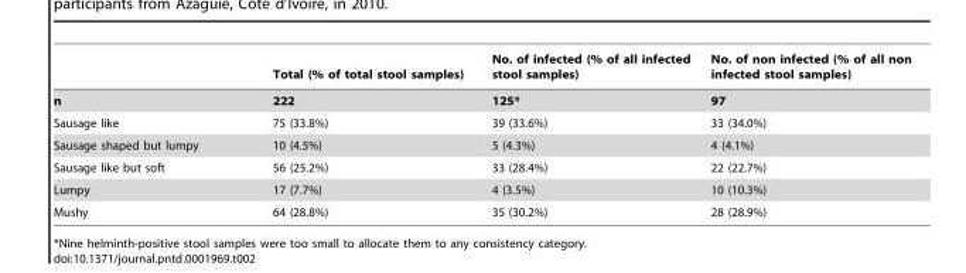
<table><thead><tr><td></td><td>Total (% of total stool samples)</td><td>No. of infected (% of all infected stool samples)</td><td>No. of non infected (% of all non infected stool samples)</td></tr></thead><tbody><tr><td>n</td><td>222</td><td>125*</td><td>97</td></tr><tr><td>Sausage like</td><td>75 (33.8%)</td><td>39 (33.6%)</td><td>33 (34.0%)</td></tr><tr><td>Sausage shaped but lumpy</td><td>10 (4.5%)</td><td>5 (4.3%)</td><td>4 (4.1%)</td></tr><tr><td>Sausage like but soft</td><td>56 (25.2%)</td><td>33 (28.4%)</td><td>22 (22.7%)</td></tr><tr><td>Lumpy</td><td>17 (7.7%)</td><td>4 (3.5%)</td><td>10 (10.3%)</td></tr><tr><td>Mushy</td><td>64 (28.8%)</td><td>35 (30.2%)</td><td>28 (28.9%)</td></tr></tbody></table>